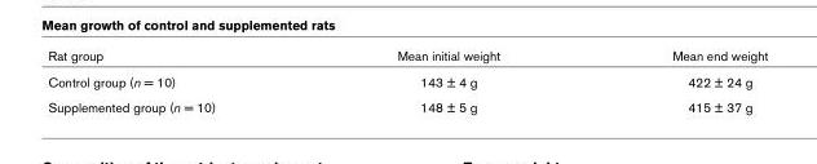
<table><thead><tr><td>Rat group</td><td>Mean initial weight</td><td>Mean end weight</td></tr></thead><tbody><tr><td>Control group (n = 10)</td><td>143 ± 4 g</td><td>422 ± 24 g</td></tr><tr><td>Supplemented group (n = 10)</td><td>148 ± 5 g</td><td>415 ± 37 g</td></tr></tbody></table>